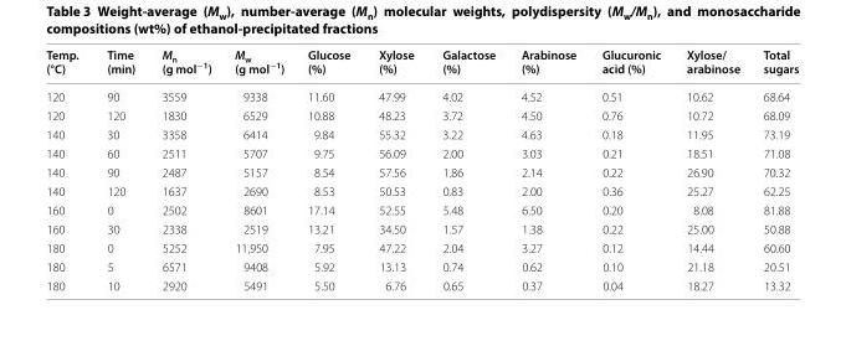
<table><thead><tr><td>Temp. (°C)</td><td>Time (min)</td><td>M<sub>n</sub> (g mol<sup>−1</sup>)</td><td>M<sub>w</sub> (g mol<sup>−1</sup>)</td><td>Glucose (%)</td><td>Xylose (%)</td><td>Galactose (%)</td><td>Arabinose (%)</td><td>Glucuronic acid (%)</td><td>Xylose/ arabinose</td><td>Total sugars</td></tr></thead><tbody><tr><td>120</td><td>90</td><td>3559</td><td>9338</td><td>11.60</td><td>47.99</td><td>4.02</td><td>4.52</td><td>0.51</td><td>10.62</td><td>68.64</td></tr><tr><td>120</td><td>120</td><td>1830</td><td>6529</td><td>10.88</td><td>48.23</td><td>3.72</td><td>4.50</td><td>0.76</td><td>10.72</td><td>68.09</td></tr><tr><td>140</td><td>30</td><td>3358</td><td>6414</td><td>9.84</td><td>55.32</td><td>3.22</td><td>4.63</td><td>0.18</td><td>11.95</td><td>73.19</td></tr><tr><td>140</td><td>60</td><td>2511</td><td>5707</td><td>9.75</td><td>56.09</td><td>2.00</td><td>3.03</td><td>0.21</td><td>18.51</td><td>71.08</td></tr><tr><td>140</td><td>90</td><td>2487</td><td>5157</td><td>8.54</td><td>57.56</td><td>1.86</td><td>2.14</td><td>0.22</td><td>26.90</td><td>70.32</td></tr><tr><td>140</td><td>120</td><td>1637</td><td>2690</td><td>8.53</td><td>50.53</td><td>0.83</td><td>2.00</td><td>0.36</td><td>25.27</td><td>62.25</td></tr><tr><td>160</td><td>0</td><td>2502</td><td>8601</td><td>17.14</td><td>52.55</td><td>5.48</td><td>6.50</td><td>0.20</td><td>8.08</td><td>81.88</td></tr><tr><td>160</td><td>30</td><td>2338</td><td>2519</td><td>13.21</td><td>34.50</td><td>1.57</td><td>1.38</td><td>0.22</td><td>25.00</td><td>50.88</td></tr><tr><td>180</td><td>0</td><td>5252</td><td>11,950</td><td>7.95</td><td>47.22</td><td>2.04</td><td>3.27</td><td>0.12</td><td>14.44</td><td>60.60</td></tr><tr><td>180</td><td>5</td><td>6571</td><td>9408</td><td>5.92</td><td>13.13</td><td>0.74</td><td>0.62</td><td>0.10</td><td>21.18</td><td>20.51</td></tr><tr><td>180</td><td>10</td><td>2920</td><td>5491</td><td>5.50</td><td>6.76</td><td>0.65</td><td>0.37</td><td>0.04</td><td>18.27</td><td>13.32</td></tr></tbody></table>